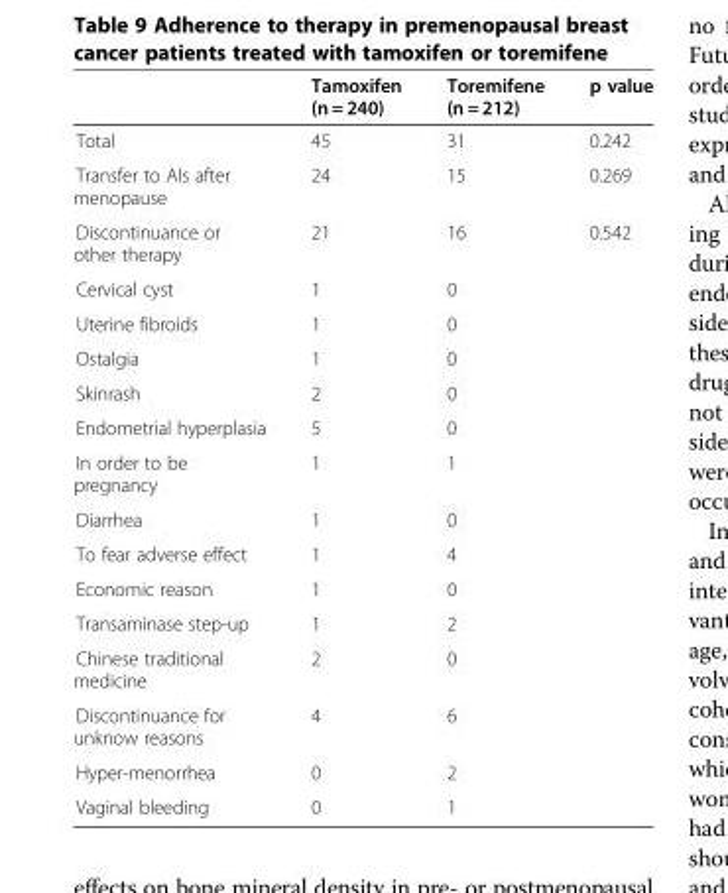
<table><thead><tr><td></td><td>Tamoxifen (n = 240)</td><td>Toremifene (n = 212)</td><td>p value</td></tr></thead><tbody><tr><td>Total</td><td>45</td><td>31</td><td>0.242</td></tr><tr><td>Transfer to AIs after menopause</td><td>24</td><td>15</td><td>0.269</td></tr><tr><td>Discontinuance or other therapy</td><td>21</td><td>16</td><td>0.542</td></tr><tr><td>Cervical cyst</td><td>1</td><td>0</td><td></td></tr><tr><td>Uterine fibroids</td><td>1</td><td>0</td><td></td></tr><tr><td>Ostalgia</td><td>1</td><td>0</td><td></td></tr><tr><td>Skinrash</td><td>2</td><td>0</td><td></td></tr><tr><td>Endometrial hyperplasia</td><td>5</td><td>0</td><td></td></tr><tr><td>In order to be pregnancy</td><td>1</td><td>1</td><td></td></tr><tr><td>Diarrhea</td><td>1</td><td>0</td><td></td></tr><tr><td>To fear adverse effect</td><td>1</td><td>4</td><td></td></tr><tr><td>Economic reason</td><td>1</td><td>0</td><td></td></tr><tr><td>Transaminase step-up</td><td>1</td><td>2</td><td></td></tr><tr><td>Chinese traditional medicine</td><td>2</td><td>0</td><td></td></tr><tr><td>Discontinuance for unknow reasons</td><td>4</td><td>6</td><td></td></tr><tr><td>Hyper-menorrhea</td><td>0</td><td>2</td><td></td></tr><tr><td>Vaginal bleeding</td><td>0</td><td>1</td><td></td></tr></tbody></table>